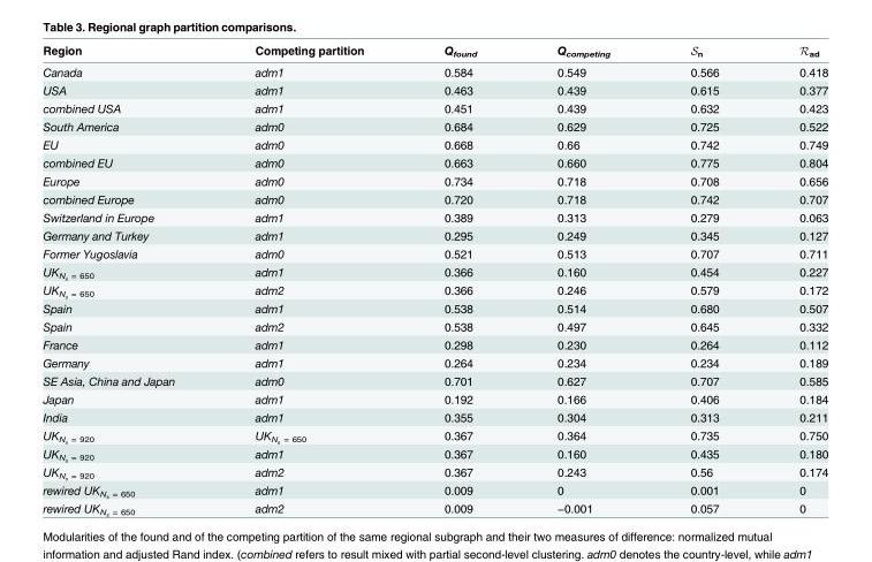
<table><thead><tr><td>Region</td><td>Competing partition</td><td>Q<sub>found</sub></td><td>Q<sub>competing</sub></td><td>S<sub>n</sub></td><td>R<sub>ad</sub></td></tr></thead><tbody><tr><td>Canada</td><td>adm1</td><td>0.584</td><td>0.549</td><td>0.566</td><td>0.418</td></tr><tr><td>USA</td><td>adm1</td><td>0.463</td><td>0.439</td><td>0.615</td><td>0.377</td></tr><tr><td>combined USA</td><td>adm1</td><td>0.451</td><td>0.439</td><td>0.632</td><td>0.423</td></tr><tr><td>South America</td><td>adm0</td><td>0.684</td><td>0.629</td><td>0.725</td><td>0.522</td></tr><tr><td>EU</td><td>adm0</td><td>0.668</td><td>0.66</td><td>0.742</td><td>0.749</td></tr><tr><td>combined EU</td><td>adm0</td><td>0.663</td><td>0.660</td><td>0.775</td><td>0.804</td></tr><tr><td>Europe</td><td>adm0</td><td>0.734</td><td>0.718</td><td>0.708</td><td>0.656</td></tr><tr><td>combined Europe</td><td>adm0</td><td>0.720</td><td>0.718</td><td>0.742</td><td>0.707</td></tr><tr><td>Switzerland in Europe</td><td>adm1</td><td>0.389</td><td>0.313</td><td>0.279</td><td>0.063</td></tr><tr><td>Germany and Turkey</td><td>adm1</td><td>0.295</td><td>0.249</td><td>0.345</td><td>0.127</td></tr><tr><td>Former Yugoslavia</td><td>adm0</td><td>0.521</td><td>0.513</td><td>0.707</td><td>0.711</td></tr><tr><td>UKNs = 650</td><td>adm1</td><td>0.366</td><td>0.160</td><td>0.454</td><td>0.227</td></tr><tr><td>UKNs = 650</td><td>adm2</td><td>0.366</td><td>0.246</td><td>0.579</td><td>0.172</td></tr><tr><td>Spain</td><td>adm1</td><td>0.538</td><td>0.514</td><td>0.680</td><td>0.507</td></tr><tr><td>Spain</td><td>adm2</td><td>0.538</td><td>0.497</td><td>0.645</td><td>0.332</td></tr><tr><td>France</td><td>adm1</td><td>0.298</td><td>0.230</td><td>0.264</td><td>0.112</td></tr><tr><td>Germany</td><td>adm1</td><td>0.264</td><td>0.234</td><td>0.234</td><td>0.189</td></tr><tr><td>SE Asia, China and Japan</td><td>adm0</td><td>0.701</td><td>0.627</td><td>0.707</td><td>0.585</td></tr><tr><td>Japan</td><td>adm1</td><td>0.192</td><td>0.166</td><td>0.406</td><td>0.184</td></tr><tr><td>India</td><td>adm1</td><td>0.355</td><td>0.304</td><td>0.313</td><td>0.211</td></tr><tr><td>UKNs = 920</td><td>UKNs = 650</td><td>0.367</td><td>0.364</td><td>0.735</td><td>0.750</td></tr><tr><td>UKNs = 920</td><td>adm1</td><td>0.367</td><td>0.160</td><td>0.435</td><td>0.180</td></tr><tr><td>UKNs = 920</td><td>adm2</td><td>0.367</td><td>0.243</td><td>0.56</td><td>0.174</td></tr><tr><td>rewired UKNs = 650</td><td>adm1</td><td>0.009</td><td>0</td><td>0.001</td><td>0</td></tr><tr><td>rewired UKNs = 650</td><td>adm2</td><td>0.009</td><td>−0.001</td><td>0.057</td><td>0</td></tr></tbody></table>